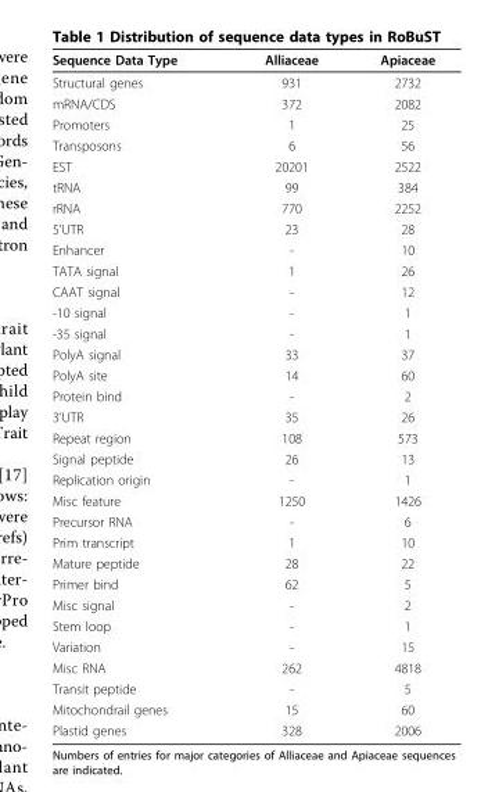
<table><thead><tr><td>Sequence Data Type</td><td>Alliaceae</td><td>Apiaceae</td></tr></thead><tbody><tr><td>Structural genes</td><td>931</td><td>2732</td></tr><tr><td>mRNA/CDS</td><td>372</td><td>2082</td></tr><tr><td>Promoters</td><td>1</td><td>25</td></tr><tr><td>Transposons</td><td>6</td><td>56</td></tr><tr><td>EST</td><td>20201</td><td>2522</td></tr><tr><td>tRNA</td><td>99</td><td>384</td></tr><tr><td>rRNA</td><td>770</td><td>2252</td></tr><tr><td>5’UTR</td><td>23</td><td>28</td></tr><tr><td>Enhancer</td><td>-</td><td>10</td></tr><tr><td>TATA signal</td><td>1</td><td>26</td></tr><tr><td>CAAT signal</td><td>-</td><td>12</td></tr><tr><td>-10 signal</td><td>-</td><td>1</td></tr><tr><td>-35 signal</td><td>-</td><td>1</td></tr><tr><td>PolyA signal</td><td>33</td><td>37</td></tr><tr><td>PolyA site</td><td>14</td><td>60</td></tr><tr><td>Protein bind</td><td>-</td><td>2</td></tr><tr><td>3’UTR</td><td>35</td><td>26</td></tr><tr><td>Repeat region</td><td>108</td><td>573</td></tr><tr><td>Signal peptide</td><td>26</td><td>13</td></tr><tr><td>Replication origin</td><td>-</td><td>1</td></tr><tr><td>Misc feature</td><td>1250</td><td>1426</td></tr><tr><td>Precursor RNA</td><td>-</td><td>6</td></tr><tr><td>Prim transcript</td><td>1</td><td>10</td></tr><tr><td>Mature peptide</td><td>28</td><td>22</td></tr><tr><td>Primer bind</td><td>62</td><td>5</td></tr><tr><td>Misc signal</td><td>-</td><td>2</td></tr><tr><td>Stem loop</td><td>-</td><td>1</td></tr><tr><td>Variation</td><td>-</td><td>15</td></tr><tr><td>Misc RNA</td><td>262</td><td>4818</td></tr><tr><td>Transit peptide</td><td>-</td><td>5</td></tr><tr><td>Mitochondrail genes</td><td>15</td><td>60</td></tr><tr><td>Plastid genes</td><td>328</td><td>2006</td></tr></tbody></table>